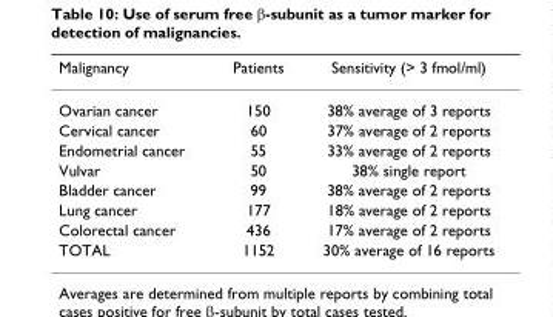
<table><thead><tr><td>Malignancy</td><td>Patients</td><td>Sensitivity (&gt; 3 fmol/ml)</td></tr></thead><tbody><tr><td>Ovarian cancer</td><td>150</td><td>38% average of 3 reports</td></tr><tr><td>Cervical cancer</td><td>60</td><td>37% average of 2 reports</td></tr><tr><td>Endometrial cancer</td><td>55</td><td>33% average of 2 reports</td></tr><tr><td>Vulvar</td><td>50</td><td>38% single report</td></tr><tr><td>Bladder cancer</td><td>99</td><td>38% average of 2 reports</td></tr><tr><td>Lung cancer</td><td>177</td><td>18% average of 2 reports</td></tr><tr><td>Colorectal cancer</td><td>436</td><td>17% average of 2 reports</td></tr><tr><td>TOTAL</td><td>1152</td><td>30% average of 16 reports</td></tr></tbody></table>